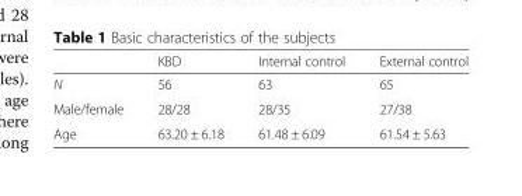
<table><thead><tr><td></td><td>KBD</td><td>Internal control</td><td>External control</td></tr></thead><tbody><tr><td>N</td><td>56</td><td>63</td><td>65</td></tr><tr><td>Male/female</td><td>28/28</td><td>28/35</td><td>27/38</td></tr><tr><td>Age</td><td>63.20 ± 6.18</td><td>61.48 ± 6.09</td><td>61.54 ± 5.63</td></tr></tbody></table>